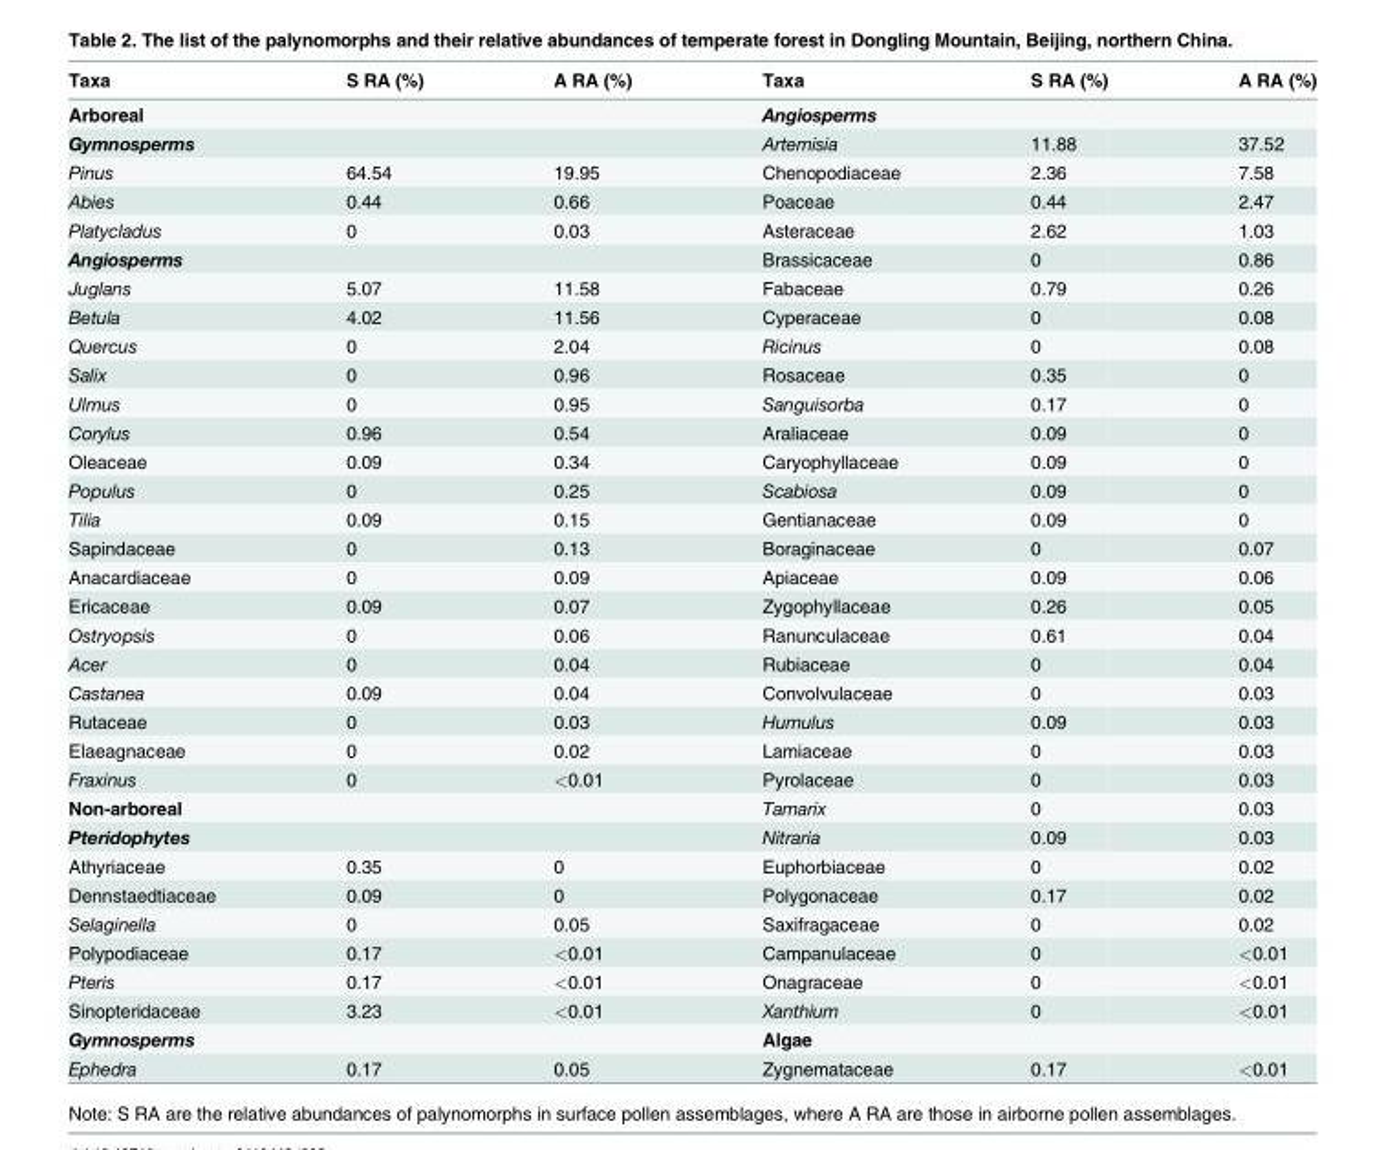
<table><thead><tr><td>Taxa</td><td>S RA (%)</td><td>A RA (%)</td><td>Taxa</td><td>S RA (%)</td><td>A RA (%)</td></tr></thead><tbody><tr><td colspan="3">Arboreal</td><td colspan="3">Angiosperms</td></tr><tr><td colspan="3">Gymnosperms</td><td>Artemisia</td><td>11.88</td><td>37.52</td></tr><tr><td>Pinus</td><td>64.54</td><td>19.95</td><td>Chenopodiaceae</td><td>2.36</td><td>7.58</td></tr><tr><td>Abies</td><td>0.44</td><td>0.66</td><td>Poaceae</td><td>0.44</td><td>2.47</td></tr><tr><td>Platycladus</td><td>0</td><td>0.03</td><td>Asteraceae</td><td>2.62</td><td>1.03</td></tr><tr><td colspan="3">Angiosperms</td><td>Brassicaceae</td><td>0</td><td>0.86</td></tr><tr><td>Juglans</td><td>5.07</td><td>11.58</td><td>Fabaceae</td><td>0.79</td><td>0.26</td></tr><tr><td>Betula</td><td>4.02</td><td>11.56</td><td>Cyperaceae</td><td>0</td><td>0.08</td></tr><tr><td>Quercus</td><td>0</td><td>2.04</td><td>Ricinus</td><td>0</td><td>0.08</td></tr><tr><td>Salix</td><td>0</td><td>0.96</td><td>Rosaceae</td><td>0.35</td><td>0</td></tr><tr><td>Ulmus</td><td>0</td><td>0.95</td><td>Sanguisorba</td><td>0.17</td><td>0</td></tr><tr><td>Corylus</td><td>0.96</td><td>0.54</td><td>Araliaceae</td><td>0.09</td><td>0</td></tr><tr><td>Oleaceae</td><td>0.09</td><td>0.34</td><td>Caryophyllaceae</td><td>0.09</td><td>0</td></tr><tr><td>Populus</td><td>0</td><td>0.25</td><td>Scabiosa</td><td>0.09</td><td>0</td></tr><tr><td>Tilia</td><td>0.09</td><td>0.15</td><td>Gentianaceae</td><td>0.09</td><td>0</td></tr><tr><td>Sapindaceae</td><td>0</td><td>0.13</td><td>Boraginaceae</td><td>0</td><td>0.07</td></tr><tr><td>Anacardiaceae</td><td>0</td><td>0.09</td><td>Apiaceae</td><td>0.09</td><td>0.06</td></tr><tr><td>Ericaceae</td><td>0.09</td><td>0.07</td><td>Zygophyllaceae</td><td>0.26</td><td>0.05</td></tr><tr><td>Ostryopsis</td><td>0</td><td>0.06</td><td>Ranunculaceae</td><td>0.61</td><td>0.04</td></tr><tr><td>Acer</td><td>0</td><td>0.04</td><td>Rubiaceae</td><td>0</td><td>0.04</td></tr><tr><td>Castanea</td><td>0.09</td><td>0.04</td><td>Convolvulaceae</td><td>0</td><td>0.03</td></tr><tr><td>Rutaceae</td><td>0</td><td>0.03</td><td>Humulus</td><td>0.09</td><td>0.03</td></tr><tr><td>Elaeagnaceae</td><td>0</td><td>0.02</td><td>Lamiaceae</td><td>0</td><td>0.03</td></tr><tr><td>Fraxinus</td><td>0</td><td>&lt;0.01</td><td>Pyrolaceae</td><td>0</td><td>0.03</td></tr><tr><td colspan="3">Non-arboreal</td><td>Tamarix</td><td>0</td><td>0.03</td></tr><tr><td colspan="3">Pteridophytes</td><td>Nitraria</td><td>0.09</td><td>0.03</td></tr><tr><td>Athyriaceae</td><td>0.35</td><td>0</td><td>Euphorbiaceae</td><td>0</td><td>0.02</td></tr><tr><td>Dennstaedtiaceae</td><td>0.09</td><td>0</td><td>Polygonaceae</td><td>0.17</td><td>0.02</td></tr><tr><td>Selaginella</td><td>0</td><td>0.05</td><td>Saxifragaceae</td><td>0</td><td>0.02</td></tr><tr><td>Polypodiaceae</td><td>0.17</td><td>&lt;0.01</td><td>Campanulaceae</td><td>0</td><td>&lt;0.01</td></tr><tr><td>Pteris</td><td>0.17</td><td>&lt;0.01</td><td>Onagraceae</td><td>0</td><td>&lt;0.01</td></tr><tr><td>Sinopteridaceae</td><td>3.23</td><td>&lt;0.01</td><td>Xanthium</td><td>0</td><td>&lt;0.01</td></tr><tr><td colspan="3">Gymnosperms</td><td colspan="3">Algae</td></tr><tr><td>Ephedra</td><td>0.17</td><td>0.05</td><td>Zygnemataceae</td><td>0.17</td><td>&lt;0.01</td></tr></tbody></table>